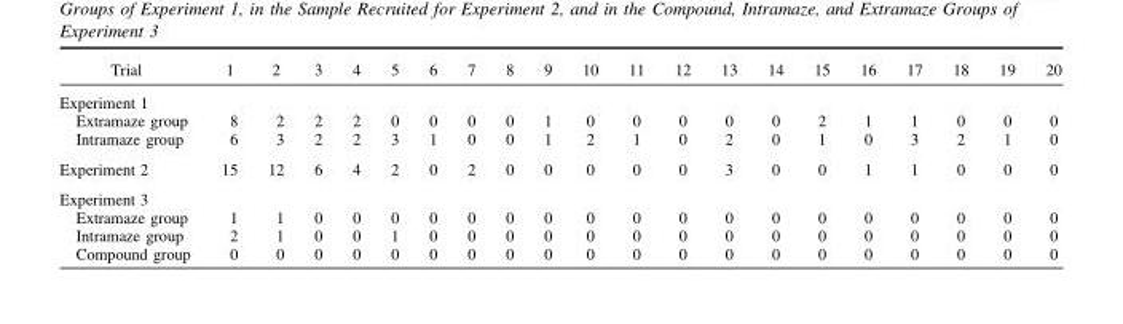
<table><thead><tr><td>Trial</td><td>1</td><td>2</td><td>3</td><td>4</td><td>5</td><td>6</td><td>7</td><td>8</td><td>9</td><td>10</td><td>11</td><td>12</td><td>13</td><td>14</td><td>15</td><td>16</td><td>17</td><td>18</td><td>19</td><td>20</td></tr></thead><tbody><tr><td colspan="21">Experiment 1</td></tr><tr><td>Extramaze group</td><td>8</td><td>2</td><td>2</td><td>2</td><td>0</td><td>0</td><td>0</td><td>0</td><td>1</td><td>0</td><td>0</td><td>0</td><td>0</td><td>0</td><td>2</td><td>1</td><td>1</td><td>0</td><td>0</td><td>0</td></tr><tr><td>Intramaze group</td><td>6</td><td>3</td><td>2</td><td>2</td><td>3</td><td>1</td><td>0</td><td>0</td><td>1</td><td>2</td><td>1</td><td>0</td><td>2</td><td>0</td><td>1</td><td>0</td><td>3</td><td>2</td><td>1</td><td>0</td></tr><tr><td>Experiment 2</td><td>15</td><td>12</td><td>6</td><td>4</td><td>2</td><td>0</td><td>2</td><td>0</td><td>0</td><td>0</td><td>0</td><td>0</td><td>3</td><td>0</td><td>0</td><td>1</td><td>1</td><td>0</td><td>0</td><td>0</td></tr><tr><td colspan="21">Experiment 3</td></tr><tr><td>Extramaze group</td><td>1</td><td>1</td><td>0</td><td>0</td><td>0</td><td>0</td><td>0</td><td>0</td><td>0</td><td>0</td><td>0</td><td>0</td><td>0</td><td>0</td><td>0</td><td>0</td><td>0</td><td>0</td><td>0</td><td>0</td></tr><tr><td>Intramaze group</td><td>2</td><td>1</td><td>0</td><td>0</td><td>1</td><td>0</td><td>0</td><td>0</td><td>0</td><td>0</td><td>0</td><td>0</td><td>0</td><td>0</td><td>0</td><td>0</td><td>0</td><td>0</td><td>0</td><td>0</td></tr><tr><td>Compound group</td><td>0</td><td>0</td><td>0</td><td>0</td><td>0</td><td>0</td><td>0</td><td>0</td><td>0</td><td>0</td><td>0</td><td>0</td><td>0</td><td>0</td><td>0</td><td>0</td><td>0</td><td>0</td><td>0</td><td>0</td></tr></tbody></table>